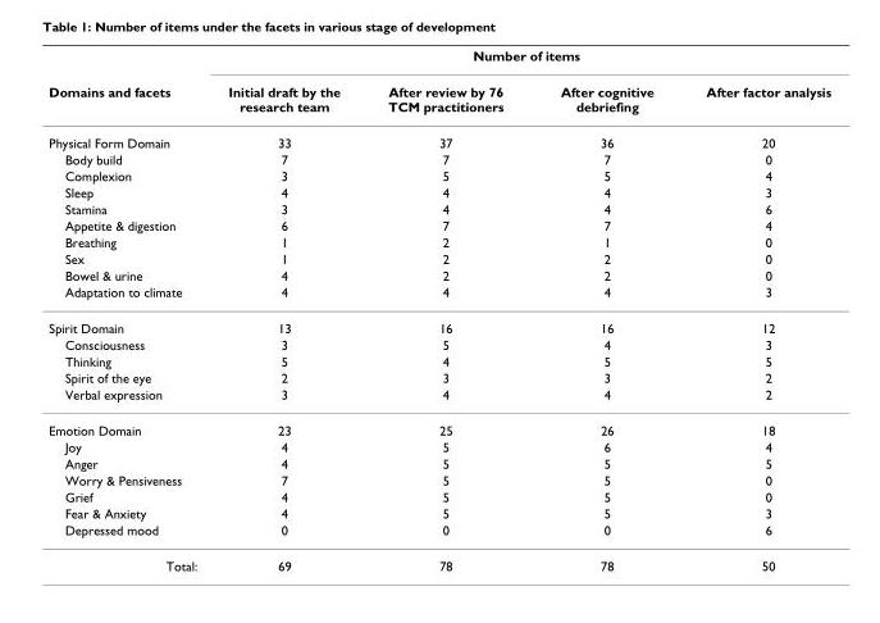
<table><thead><tr><td rowspan="2">Domains and facets</td><td colspan="4">Number of items</td></tr><tr><td>Initial draft by the research team</td><td>After review by 76 TCM practitioners</td><td>After cognitive debriefing</td><td>After factor analysis</td></tr></thead><tbody><tr><td>Physical Form Domain</td><td>33</td><td>37</td><td>36</td><td>20</td></tr><tr><td>Body build</td><td>7</td><td>7</td><td>7</td><td>0</td></tr><tr><td>Complexion</td><td>3</td><td>5</td><td>5</td><td>4</td></tr><tr><td>Sleep</td><td>4</td><td>4</td><td>4</td><td>3</td></tr><tr><td>Stamina</td><td>3</td><td>4</td><td>4</td><td>6</td></tr><tr><td>Appetite &amp; digestion</td><td>6</td><td>7</td><td>7</td><td>4</td></tr><tr><td>Breathing</td><td>1</td><td>2</td><td>1</td><td>0</td></tr><tr><td>Sex</td><td>1</td><td>2</td><td>2</td><td>0</td></tr><tr><td>Bowel &amp; urine</td><td>4</td><td>2</td><td>2</td><td>0</td></tr><tr><td>Adaptation to climate</td><td>4</td><td>4</td><td>4</td><td>3</td></tr><tr><td>Spirit Domain</td><td>13</td><td>16</td><td>16</td><td>12</td></tr><tr><td>Consciousness</td><td>3</td><td>5</td><td>4</td><td>3</td></tr><tr><td>Thinking</td><td>5</td><td>4</td><td>5</td><td>5</td></tr><tr><td>Spirit of the eye</td><td>2</td><td>3</td><td>3</td><td>2</td></tr><tr><td>Verbal expression</td><td>3</td><td>4</td><td>4</td><td>2</td></tr><tr><td>Emotion Domain</td><td>23</td><td>25</td><td>26</td><td>18</td></tr><tr><td>Joy</td><td>4</td><td>5</td><td>6</td><td>4</td></tr><tr><td>Anger</td><td>4</td><td>5</td><td>5</td><td>5</td></tr><tr><td>Worry &amp; Pensiveness</td><td>7</td><td>5</td><td>5</td><td>0</td></tr><tr><td>Grief</td><td>4</td><td>5</td><td>5</td><td>0</td></tr><tr><td>Fear &amp; Anxiety</td><td>4</td><td>5</td><td>5</td><td>3</td></tr><tr><td>Depressed mood</td><td>0</td><td>0</td><td>0</td><td>6</td></tr><tr><td>Total:</td><td>69</td><td>78</td><td>78</td><td>50</td></tr></tbody></table>